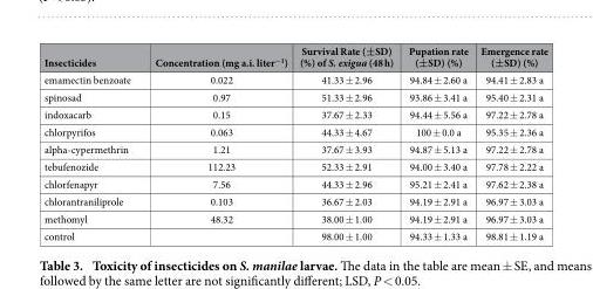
<table><thead><tr><td>Insecticides</td><td>Concentration (mg a.i. liter<sup>−1</sup>)</td><td>Survival Rate (±SD) (%) of S. exigua (48 h)</td><td>Pupation rate (±SD) (%)</td><td>Emergence rate (±SD) (%)</td></tr></thead><tbody><tr><td>emamectin benzoate</td><td>0.022</td><td>41.33 ± 2.96</td><td>94.84 ± 2.60 a</td><td>94.41 ± 2.83 a</td></tr><tr><td>spinosad</td><td>0.97</td><td>51.33 ± 2.96</td><td>93.86 ± 3.41 a</td><td>95.40 ± 2.31 a</td></tr><tr><td>indoxacarb</td><td>0.15</td><td>37.67 ± 2.33</td><td>94.44 ± 5.56 a</td><td>97.22 ± 2.78 a</td></tr><tr><td>chlorpyrifos</td><td>0.063</td><td>44.33 ± 4.67</td><td>100 ± 0.0 a</td><td>95.35 ± 2.36 a</td></tr><tr><td>alpha-cypermethrin</td><td>1.21</td><td>37.67 ± 3.93</td><td>94.87 ± 5.13 a</td><td>97.22 ± 2.78 a</td></tr><tr><td>tebufenozide</td><td>112.23</td><td>52.33 ± 2.91</td><td>94.00 ± 3.40 a</td><td>97.78 ± 2.22 a</td></tr><tr><td>chlorfenapyr</td><td>7.56</td><td>44.33 ± 2.96</td><td>95.21 ± 2.41 a</td><td>97.62 ± 2.38 a</td></tr><tr><td>chlorantraniliprole</td><td>0.103</td><td>36.67 ± 2.03</td><td>94.19 ± 2.91 a</td><td>96.97 ± 3.03 a</td></tr><tr><td>methomyl</td><td>48.32</td><td>38.00 ± 1.00</td><td>94.19 ± 2.91 a</td><td>96.97 ± 3.03 a</td></tr><tr><td>control</td><td></td><td>98.00 ± 1.00</td><td>94.33 ± 1.33 a</td><td>98.81 ± 1.19 a</td></tr></tbody></table>